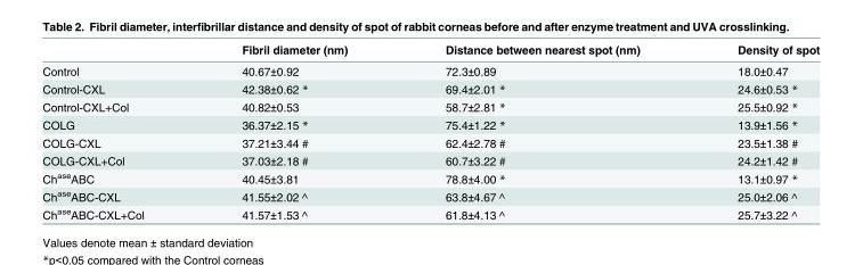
<table><thead><tr><td></td><td>Fibril diameter (nm)</td><td>Distance between nearest spot (nm)</td><td>Density of spot</td></tr></thead><tbody><tr><td>Control</td><td>40.67±0.92</td><td>72.3±0.89</td><td>18.0±0.47</td></tr><tr><td>Control-CXL</td><td>42.38±0.62 *</td><td>69.4±2.01 *</td><td>24.6±0.53 *</td></tr><tr><td>Control-CXL+Col</td><td>40.82±0.53</td><td>58.7±2.81 *</td><td>25.5±0.92 *</td></tr><tr><td>COLG</td><td>36.37±2.15 *</td><td>75.4±1.22 *</td><td>13.9±1.56 *</td></tr><tr><td>COLG-CXL</td><td>37.21±3.44 #</td><td>62.4±2.78 #</td><td>23.5±1.38 #</td></tr><tr><td>COLG-CXL+Col</td><td>37.03±2.18 #</td><td>60.7±3.22 #</td><td>24.2±1.42 #</td></tr><tr><td>Ch<sup>ase</sup>ABC</td><td>40.45±3.81</td><td>78.8±4.00 *</td><td>13.1±0.97 *</td></tr><tr><td>Ch<sup>ase</sup>ABC-CXL</td><td>41.55±2.02 ^</td><td>63.8±4.67 ^</td><td>25.0±2.06 ^</td></tr><tr><td>Ch<sup>ase</sup>ABC-CXL+Col</td><td>41.57±1.53 ^</td><td>61.8±4.13 ^</td><td>25.7±3.22 ^</td></tr></tbody></table>